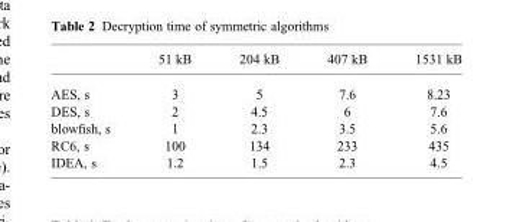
<table><thead><tr><td></td><td>51 kB</td><td>204 kB</td><td>407 kB</td><td>1531 kB</td></tr></thead><tbody><tr><td>AES, s</td><td>3</td><td>5</td><td>7.6</td><td>8.23</td></tr><tr><td>DES, s</td><td>2</td><td>4.5</td><td>6</td><td>7.6</td></tr><tr><td>blowfish, s</td><td>1</td><td>2.3</td><td>3.5</td><td>5.6</td></tr><tr><td>RC6, s</td><td>100</td><td>134</td><td>233</td><td>435</td></tr><tr><td>IDEA, s</td><td>1.2</td><td>1.5</td><td>2.3</td><td>4.5</td></tr></tbody></table>